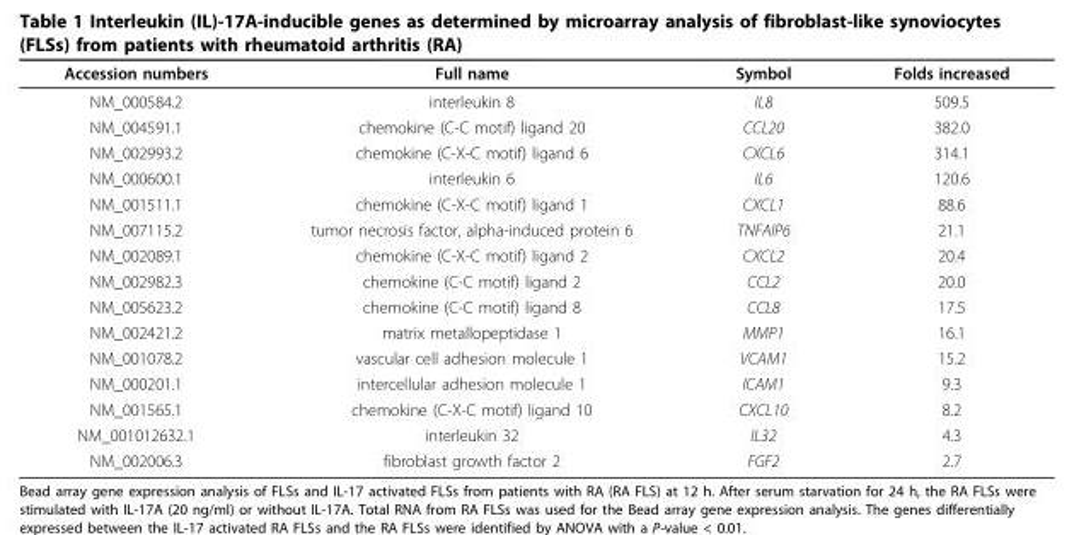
<table><thead><tr><td>Accession numbers</td><td>Full name</td><td>Symbol</td><td>Folds increased</td></tr></thead><tbody><tr><td>NM_000584.2</td><td>interleukin 8</td><td>IL8</td><td>509.5</td></tr><tr><td>NM_004591.1</td><td>chemokine (C-C motif) ligand 20</td><td>CCL20</td><td>382.0</td></tr><tr><td>NM_002993.2</td><td>chemokine (C-X-C motif) ligand 6</td><td>CXCL6</td><td>314.1</td></tr><tr><td>NM_000600.1</td><td>interleukin 6</td><td>IL6</td><td>120.6</td></tr><tr><td>NM_001511.1</td><td>chemokine (C-X-C motif) ligand 1</td><td>CXCL1</td><td>88.6</td></tr><tr><td>NM_007115.2</td><td>tumor necrosis factor, alpha-induced protein 6</td><td>TNFAIP6</td><td>21.1</td></tr><tr><td>NM_002089.1</td><td>chemokine (C-X-C motif) ligand 2</td><td>CXCL2</td><td>20.4</td></tr><tr><td>NM_002982.3</td><td>chemokine (C-C motif) ligand 2</td><td>CCL2</td><td>20.0</td></tr><tr><td>NM_005623.2</td><td>chemokine (C-C motif) ligand 8</td><td>CCL8</td><td>17.5</td></tr><tr><td>NM_002421.2</td><td>matrix metallopeptidase 1</td><td>MMP1</td><td>16.1</td></tr><tr><td>NM_001078.2</td><td>vascular cell adhesion molecule 1</td><td>VCAM1</td><td>15.2</td></tr><tr><td>NM_000201.1</td><td>intercellular adhesion molecule 1</td><td>ICAM1</td><td>9.3</td></tr><tr><td>NM_001565.1</td><td>chemokine (C-X-C motif) ligand 10</td><td>CXCL10</td><td>8.2</td></tr><tr><td>NM_001012632.1</td><td>interleukin 32</td><td>IL32</td><td>4.3</td></tr><tr><td>NM_002006.3</td><td>fibroblast growth factor 2</td><td>FGF2</td><td>2.7</td></tr></tbody></table>